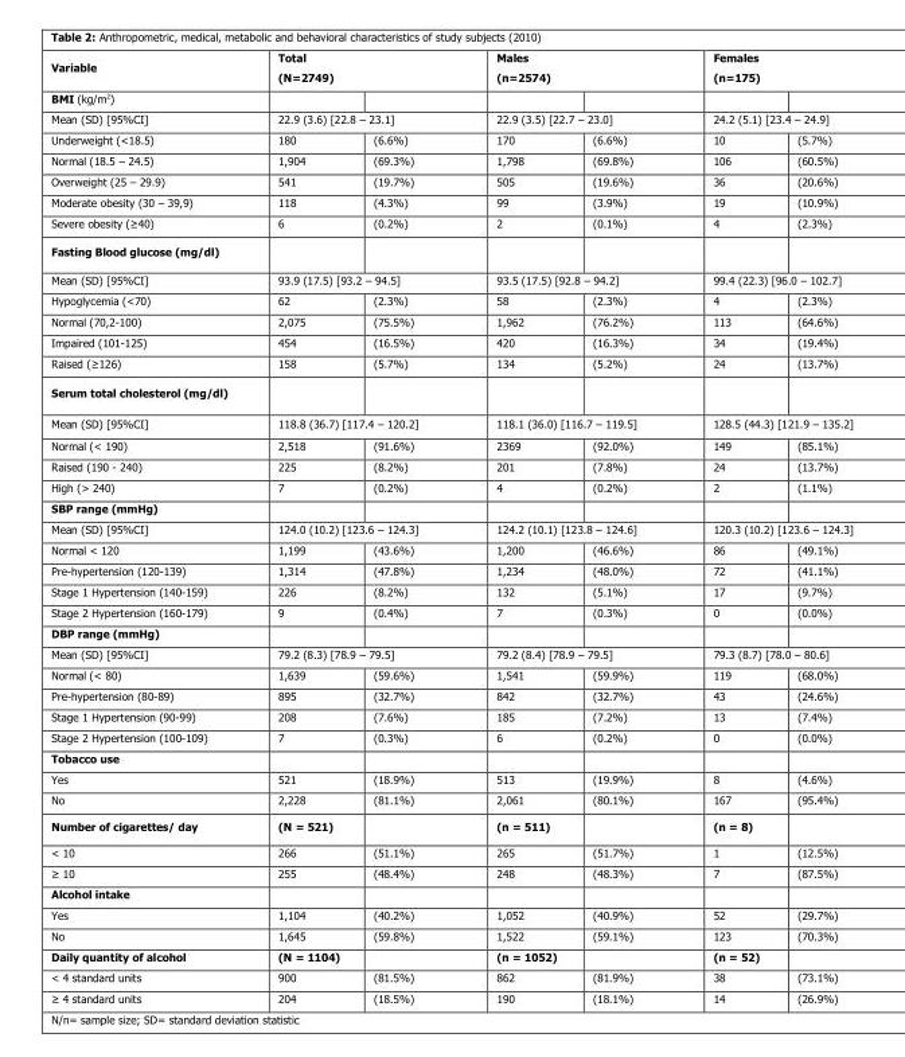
<table><thead><tr><td rowspan="2">Variable BMI (kg/m<sup>2</sup>)</td><td colspan="2">Total (N=2749)</td><td colspan="2">Males (n=2574)</td><td colspan="2">Females (n=175)</td></tr><tr><td></td><td></td><td></td><td></td><td></td><td></td></tr></thead><tbody><tr><td>Mean (SD) [95%CI]</td><td colspan="2">22.9 (3.6) [22.8 – 23.1]</td><td colspan="2">22.9 (3.5) [22.7 – 23.0]</td><td colspan="2">24.2 (5.1) [23.4 – 24.9]</td></tr><tr><td>Underweight (&lt;18.5)</td><td>180</td><td>(6.6%)</td><td>170</td><td>(6.6%)</td><td>10</td><td>(5.7%)</td></tr><tr><td>Normal (18.5 – 24.5)</td><td>1,904</td><td>(69.3%)</td><td>1,798</td><td>(69.8%)</td><td>106</td><td>(60.5%)</td></tr><tr><td>Overweight (25 – 29.9)</td><td>541</td><td>(19.7%)</td><td>505</td><td>(19.6%)</td><td>36</td><td>(20.6%)</td></tr><tr><td>Moderate obesity (30 – 39,9)</td><td>118</td><td>(4.3%)</td><td>99</td><td>(3.9%)</td><td>19</td><td>(10.9%)</td></tr><tr><td>Severe obesity (≥40)</td><td>6</td><td>(0.2%)</td><td>2</td><td>(0.1%)</td><td>4</td><td>(2.3%)</td></tr><tr><td colspan="7">Fasting Blood glucose (mg/dl)</td></tr><tr><td>Mean (SD) [95%CI]</td><td colspan="2">93.9 (17.5) [93.2 – 94.5]</td><td colspan="2">93.5 (17.5) [92.8 – 94.2]</td><td colspan="2">99.4 (22.3) [96.0 – 102.7]</td></tr><tr><td>Hypoglycemia (&lt;70)</td><td>62</td><td>(2.3%)</td><td>58</td><td>(2.3%)</td><td>4</td><td>(2.3%)</td></tr><tr><td>Normal (70,2-100)</td><td>2,075</td><td>(75.5%)</td><td>1,962</td><td>(76.2%)</td><td>113</td><td>(64.6%)</td></tr><tr><td>Impaired (101-125)</td><td>454</td><td>(16.5%)</td><td>420</td><td>(16.3%)</td><td>34</td><td>(19.4%)</td></tr><tr><td>Raised (≥126)</td><td>158</td><td>(5.7%)</td><td>134</td><td>(5.2%)</td><td>24</td><td>(13.7%)</td></tr><tr><td colspan="7">Serum total cholesterol (mg/dl)</td></tr><tr><td>Mean (SD) [95%CI]</td><td colspan="2">118.8 (36.7) [117.4 – 120.2]</td><td colspan="2">118.1 (36.0) [116.7 – 119.5]</td><td colspan="2">128.5 (44.3) [121.9 – 135.2]</td></tr><tr><td>Normal (&lt; 190)</td><td>2,518</td><td>(91.6%)</td><td>2369</td><td>(92.0%)</td><td>149</td><td>(85.1%)</td></tr><tr><td>Raised (190 - 240)</td><td>225</td><td>(8.2%)</td><td>201</td><td>(7.8%)</td><td>24</td><td>(13.7%)</td></tr><tr><td>High (&gt; 240)</td><td>7</td><td>(0.2%)</td><td>4</td><td>(0.2%)</td><td>2</td><td>(1.1%)</td></tr><tr><td colspan="7">SBP range (mmHg)</td></tr><tr><td>Mean (SD) [95%CI]</td><td colspan="2">124.0 (10.2) [123.6 – 124.3]</td><td colspan="2">124.2 (10.1) [123.8 – 124.6]</td><td colspan="2">120.3 (10.2) [123.6 – 124.3]</td></tr><tr><td>Normal &lt; 120</td><td>1,199</td><td>(43.6%)</td><td>1,200</td><td>(46.6%)</td><td>86</td><td>(49.1%)</td></tr><tr><td>Pre-hypertension (120-139)</td><td>1,314</td><td>(47.8%)</td><td>1,234</td><td>(48.0%)</td><td>72</td><td>(41.1%)</td></tr><tr><td>Stage 1 Hypertension (140-159)</td><td>226</td><td>(8.2%)</td><td>132</td><td>(5.1%)</td><td>17</td><td>(9.7%)</td></tr><tr><td>Stage 2 Hypertension (160-179)</td><td>9</td><td>(0.4%)</td><td>7</td><td>(0.3%)</td><td>0</td><td>(0.0%)</td></tr><tr><td colspan="7">DBP range (mmHg)</td></tr><tr><td>Mean (SD) [95%CI]</td><td colspan="2">79.2 (8.3) [78.9 – 79.5]</td><td colspan="2">79.2 (8.4) [78.9 – 79.5]</td><td colspan="2">79.3 (8.7) [78.0 – 80.6]</td></tr><tr><td>Normal (&lt; 80)</td><td>1,639</td><td>(59.6%)</td><td>1,541</td><td>(59.9%)</td><td>119</td><td>(68.0%)</td></tr><tr><td>Pre-hypertension (80-89)</td><td>895</td><td>(32.7%)</td><td>842</td><td>(32.7%)</td><td>43</td><td>(24.6%)</td></tr><tr><td>Stage 1 Hypertension (90-99)</td><td>208</td><td>(7.6%)</td><td>185</td><td>(7.2%)</td><td>13</td><td>(7.4%)</td></tr><tr><td>Stage 2 Hypertension (100-109)</td><td>7</td><td>(0.3%)</td><td>6</td><td>(0.2%)</td><td>0</td><td>(0.0%)</td></tr><tr><td colspan="7">Tobacco use</td></tr><tr><td>Yes</td><td>521</td><td>(18.9%)</td><td>513</td><td>(19.9%)</td><td>8</td><td>(4.6%)</td></tr><tr><td>No</td><td>2,228</td><td>(81.1%)</td><td>2,061</td><td>(80.1%)</td><td>167</td><td>(95.4%)</td></tr><tr><td>Number of cigarettes/ day</td><td>(N = 521)</td><td></td><td>(n = 511)</td><td></td><td>(n = 8)</td><td></td></tr><tr><td>&lt; 10</td><td>266</td><td>(51.1%)</td><td>265</td><td>(51.7%)</td><td>1</td><td>(12.5%)</td></tr><tr><td>≥ 10</td><td>255</td><td>(48.4%)</td><td>248</td><td>(48.3%)</td><td>7</td><td>(87.5%)</td></tr><tr><td colspan="7">Alcohol intake</td></tr><tr><td>Yes</td><td>1,104</td><td>(40.2%)</td><td>1,052</td><td>(40.9%)</td><td>52</td><td>(29.7%)</td></tr><tr><td>No</td><td>1,645</td><td>(59.8%)</td><td>1,522</td><td>(59.1%)</td><td>123</td><td>(70.3%)</td></tr><tr><td>Daily quantity of alcohol</td><td>(N = 1104)</td><td></td><td>(n = 1052)</td><td></td><td>(n = 52)</td><td></td></tr><tr><td>&lt; 4 standard units</td><td>900</td><td>(81.5%)</td><td>862</td><td>(81.9%)</td><td>38</td><td>(73.1%)</td></tr><tr><td>≥ 4 standard units</td><td>204</td><td>(18.5%)</td><td>190</td><td>(18.1%)</td><td>14</td><td>(26.9%)</td></tr></tbody></table>